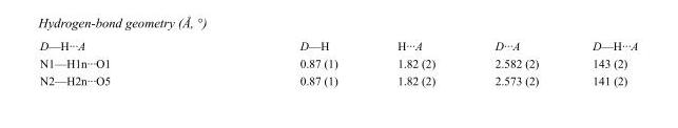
<table><tbody><tr><td>D—H···A</td><td>D—H</td><td>H···A</td><td>D···A</td><td>D—H···A</td></tr><tr><td>N1—H1n···O1</td><td>0.87 (1)</td><td>1.82 (2)</td><td>2.582 (2)</td><td>143 (2)</td></tr><tr><td>N2—H2n···O5</td><td>0.87 (1)</td><td>1.82 (2)</td><td>2.573 (2)</td><td>141 (2)</td></tr></tbody></table>